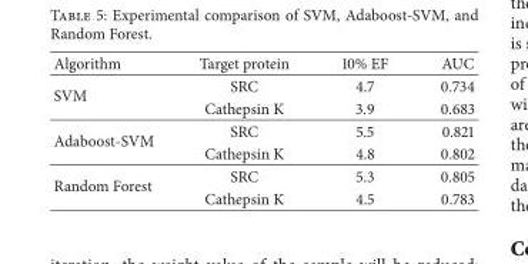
<table><thead><tr><td>Algorithm</td><td>Target protein</td><td>10% EF</td><td>AUC</td></tr></thead><tbody><tr><td rowspan="2">SVM</td><td>SRC</td><td>4.7</td><td>0.734</td></tr><tr><td>Cathepsin K</td><td>3.9</td><td>0.683</td></tr><tr><td rowspan="2">Adaboost-SVM</td><td>SRC</td><td>5.5</td><td>0.821</td></tr><tr><td>Cathepsin K</td><td>4.8</td><td>0.802</td></tr><tr><td rowspan="2">Random Forest</td><td>SRC</td><td>5.3</td><td>0.805</td></tr><tr><td>Cathepsin K</td><td>4.5</td><td>0.783</td></tr></tbody></table>